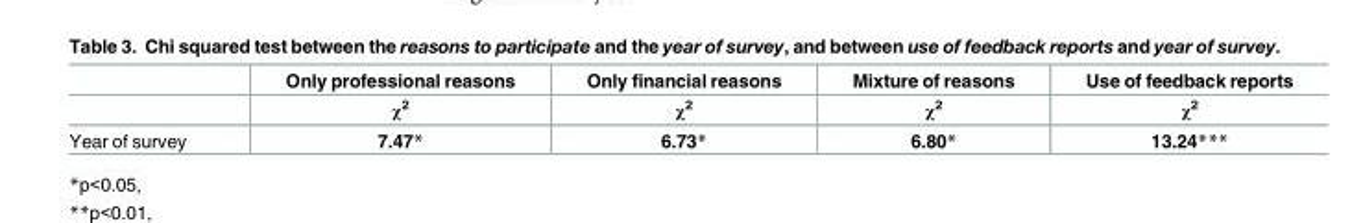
<table><thead><tr><td rowspan="2"></td><td rowspan="2">Only professional reasons χ<sup>2</sup></td><td rowspan="2">Only financial reasons χ<sup>2</sup></td><td rowspan="2">Mixture of reasons χ<sup>2</sup></td><td rowspan="2">Use of feedback reports χ<sup>2</sup></td></tr><tr></tr></thead><tbody><tr><td>Year of survey</td><td>7.47*</td><td>6.73*</td><td>6.80*</td><td>13.24***</td></tr></tbody></table>